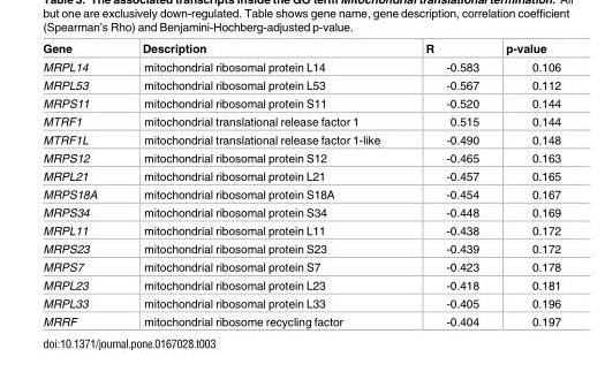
<table><thead><tr><td>Gene</td><td>Description</td><td>R</td><td>p-value</td></tr></thead><tbody><tr><td>MRPL14</td><td>mitochondrial ribosomal protein L14</td><td>-0.583</td><td>0.106</td></tr><tr><td>MRPL53</td><td>mitochondrial ribosomal protein L53</td><td>-0.567</td><td>0.112</td></tr><tr><td>MRPS11</td><td>mitochondrial ribosomal protein S11</td><td>-0.520</td><td>0.144</td></tr><tr><td>MTRF1</td><td>mitochondrial translational release factor 1</td><td>0.515</td><td>0.144</td></tr><tr><td>MTRF1L</td><td>mitochondrial translational release factor 1-like</td><td>-0.490</td><td>0.148</td></tr><tr><td>MRPS12</td><td>mitochondrial ribosomal protein S12</td><td>-0.465</td><td>0.163</td></tr><tr><td>MRPL21</td><td>mitochondrial ribosomal protein L21</td><td>-0.457</td><td>0.165</td></tr><tr><td>MRPS18A</td><td>mitochondrial ribosomal protein S18A</td><td>-0.454</td><td>0.167</td></tr><tr><td>MRPS34</td><td>mitochondrial ribosomal protein S34</td><td>-0.448</td><td>0.169</td></tr><tr><td>MRPL11</td><td>mitochondrial ribosomal protein L11</td><td>-0.438</td><td>0.172</td></tr><tr><td>MRPS23</td><td>mitochondrial ribosomal protein S23</td><td>-0.439</td><td>0.172</td></tr><tr><td>MRPS7</td><td>mitochondrial ribosomal protein S7</td><td>-0.423</td><td>0.178</td></tr><tr><td>MRPL23</td><td>mitochondrial ribosomal protein L23</td><td>-0.418</td><td>0.181</td></tr><tr><td>MRPL33</td><td>mitochondrial ribosomal protein L33</td><td>-0.405</td><td>0.196</td></tr><tr><td>MRRF</td><td>mitochondrial ribosome recycling factor</td><td>-0.404</td><td>0.197</td></tr></tbody></table>